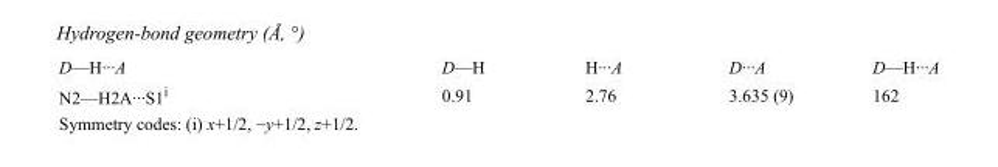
<table><tbody><tr><td>D—H···A</td><td>D—H</td><td>H···A</td><td>D···A</td><td>D—H···A</td></tr><tr><td>N2—H2A···S1<sup>i</sup></td><td>0.91</td><td>2.76</td><td>3.635 (9)</td><td>162</td></tr></tbody></table>